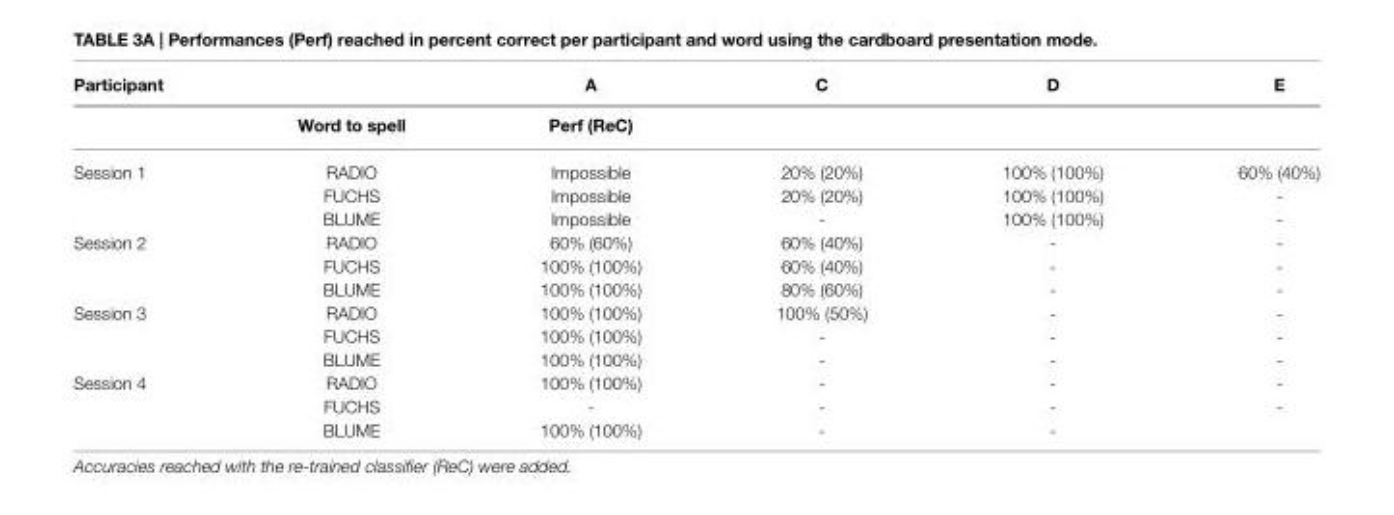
<table><thead><tr><td rowspan="2">Participant</td><td rowspan="2">Word to spell</td><td rowspan="2">A Perf (ReC)</td><td rowspan="2">C</td><td rowspan="2">D</td><td rowspan="2">E</td></tr><tr></tr></thead><tbody><tr><td rowspan="3">Session 1</td><td>RADIO</td><td>Impossible</td><td>20% (20%)</td><td>100% (100%)</td><td>60% (40%)</td></tr><tr><td>FUCHS</td><td>Impossible</td><td>20% (20%)</td><td>100% (100%)</td><td>-</td></tr><tr><td>BLUME</td><td>Impossible</td><td>-</td><td>100% (100%)</td><td>-</td></tr><tr><td rowspan="3">Session 2</td><td>RADIO</td><td>60% (60%)</td><td>60% (40%)</td><td>-</td><td>-</td></tr><tr><td>FUCHS</td><td>100% (100%)</td><td>60% (40%)</td><td>-</td><td>-</td></tr><tr><td>BLUME</td><td>100% (100%)</td><td>80% (60%)</td><td>-</td><td>-</td></tr><tr><td rowspan="3">Session 3</td><td>RADIO</td><td>100% (100%)</td><td>100% (50%)</td><td>-</td><td>-</td></tr><tr><td>FUCHS</td><td>100% (100%)</td><td>-</td><td>-</td><td>-</td></tr><tr><td>BLUME</td><td>100% (100%)</td><td>-</td><td>-</td><td>-</td></tr><tr><td rowspan="3">Session 4</td><td>RADIO</td><td>100% (100%)</td><td>-</td><td>-</td><td>-</td></tr><tr><td>FUCHS</td><td>-</td><td>-</td><td>-</td><td>-</td></tr><tr><td>BLUME</td><td>100% (100%)</td><td>-</td><td>-</td><td></td></tr></tbody></table>